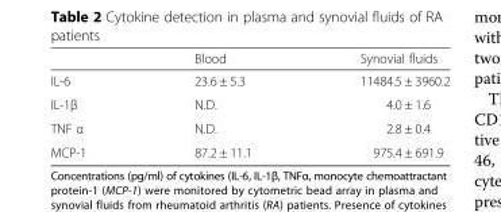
<table><thead><tr><td></td><td>Blood</td><td>Synovial fluids</td></tr></thead><tbody><tr><td>IL-6</td><td>23.6 ± 5.3</td><td>11484.5 ± 3960.2</td></tr><tr><td>IL-1β</td><td>N.D.</td><td>4.0 ± 1.6</td></tr><tr><td>TNF α</td><td>N.D.</td><td>2.8 ± 0.4</td></tr><tr><td>MCP-1</td><td>87.2 ± 11.1</td><td>975.4 ± 691.9</td></tr></tbody></table>